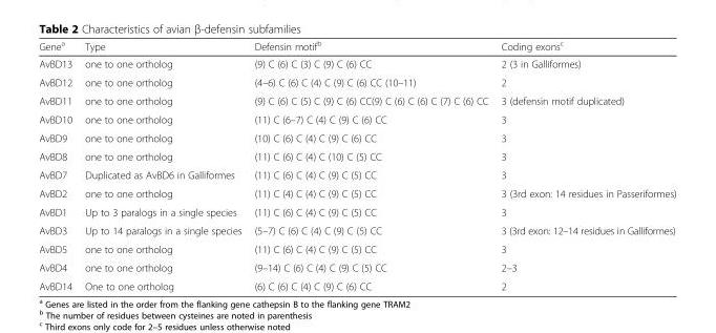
<table><thead><tr><td>Gene<sup>a</sup></td><td>Type</td><td>Defensin motif<sup>b</sup></td><td>Coding exons<sup>c</sup></td></tr></thead><tbody><tr><td>AvBD13</td><td>one to one ortholog</td><td>(9) C (6) C (3) C (9) C (6) CC</td><td>2 (3 in Galliformes)</td></tr><tr><td>AvBD12</td><td>one to one ortholog</td><td>(4–6) C (6) C (4) C (9) C (6) CC (10–11)</td><td>2</td></tr><tr><td>AvBD11</td><td>one to one ortholog</td><td>(9) C (6) C (5) C (9) C (6) CC(9) C (6) C (6) C (7) C (6) CC</td><td>3 (defensin motif duplicated)</td></tr><tr><td>AvBD10</td><td>one to one ortholog</td><td>(11) C (6–7) C (4) C (9) C (6) CC</td><td>3</td></tr><tr><td>AvBD9</td><td>one to one ortholog</td><td>(10) C (6) C (4) C (9) C (6) CC</td><td>3</td></tr><tr><td>AvBD8</td><td>one to one ortholog</td><td>(11) C (6) C (4) C (10) C (5) CC</td><td>3</td></tr><tr><td>AvBD7</td><td>Duplicated as AvBD6 in Galliformes</td><td>(11) C (6) C (4) C (9) C (5) CC</td><td>3</td></tr><tr><td>AvBD2</td><td>one to one ortholog</td><td>(11) C (4) C (4) C (9) C (5) CC</td><td>3 (3rd exon: 14 residues in Passeriformes)</td></tr><tr><td>AvBD1</td><td>Up to 3 paralogs in a single species</td><td>(11) C (6) C (4) C (9) C (5) CC</td><td>3</td></tr><tr><td>AvBD3</td><td>Up to 14 paralogs in a single species</td><td>(5–7) C (6) C (4) C (9) C (5) CC</td><td>3 (3rd exon: 12–14 residues in Galliformes)</td></tr><tr><td>AvBD5</td><td>one to one ortholog</td><td>(11) C (6) C (4) C (9) C (5) CC</td><td>3</td></tr><tr><td>AvBD4</td><td>one to one ortholog</td><td>(9–14) C (6) C (4) C (9) C (5) CC</td><td>2–3</td></tr><tr><td>AvBD14</td><td>One to one ortholog</td><td>(6) C (6) C (4) C (9) C (6) CC</td><td>2</td></tr></tbody></table>